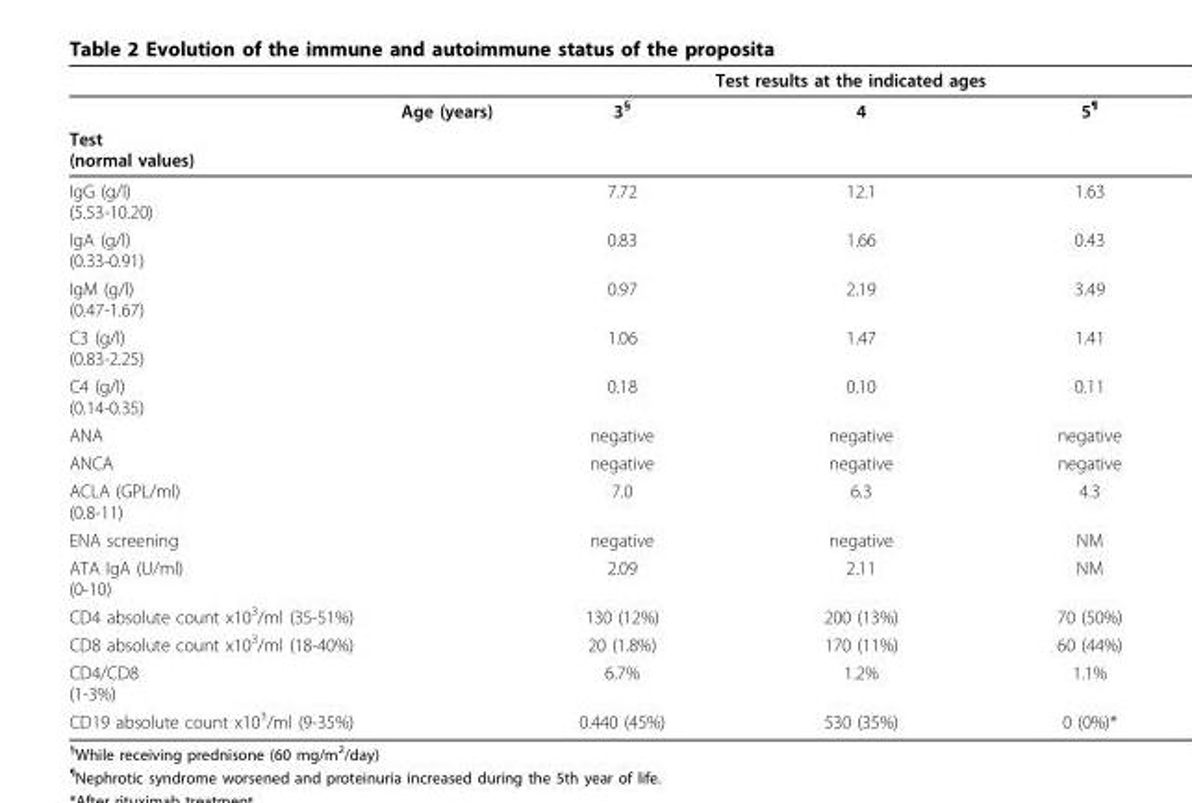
<table><thead><tr><td rowspan="2">Age (years)</td><td colspan="3">Test results at the indicated ages</td></tr><tr><td>3<sup>§</sup></td><td>4</td><td>5<sup>¶</sup></td></tr></thead><tbody><tr><td colspan="4">Test (normal values)</td></tr><tr><td>IgG (g/l) (5.53-10.20)</td><td>7.72</td><td>12.1</td><td>1.63</td></tr><tr><td>IgA (g/l) (0.33-0.91)</td><td>0.83</td><td>1.66</td><td>0.43</td></tr><tr><td>IgM (g/l) (0.47-1.67)</td><td>0.97</td><td>2.19</td><td>3.49</td></tr><tr><td>C3 (g/l) (0.83-2.25)</td><td>1.06</td><td>1.47</td><td>1.41</td></tr><tr><td>C4 (g/l) (0.14-0.35)</td><td>0.18</td><td>0.10</td><td>0.11</td></tr><tr><td>ANA</td><td>negative</td><td>negative</td><td>negative</td></tr><tr><td>ANCA</td><td>negative</td><td>negative</td><td>negative</td></tr><tr><td>ACLA (GPL/ml) (0.8-11)</td><td>7.0</td><td>6.3</td><td>4.3</td></tr><tr><td>ENA screening</td><td>negative</td><td>negative</td><td>NM</td></tr><tr><td>ATA IgA (U/ml) (0-10)</td><td>2.09</td><td>2.11</td><td>NM</td></tr><tr><td>CD4 absolute count x10<sup>3</sup>/ml (35-51%)</td><td>130 (12%)</td><td>200 (13%)</td><td>70 (50%)</td></tr><tr><td>CD8 absolute count x10<sup>3</sup>/ml (18-40%)</td><td>20 (1.8%)</td><td>170 (11%)</td><td>60 (44%)</td></tr><tr><td>CD4/CD8 (1-3%)</td><td>6.7%</td><td>1.2%</td><td>1.1%</td></tr><tr><td>CD19 absolute count x10<sup>3</sup>/ml (9-35%)</td><td>0.440 (45%)</td><td>530 (35%)</td><td>0 (0%)*</td></tr></tbody></table>